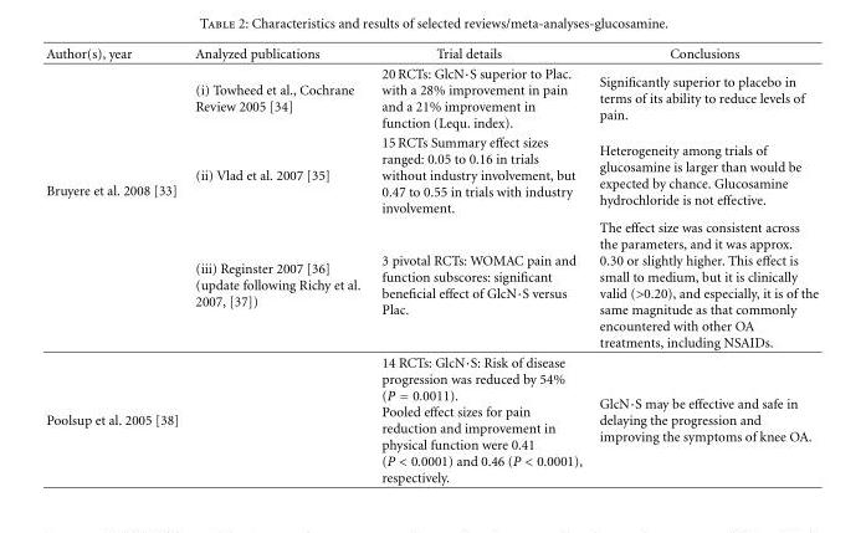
<table><thead><tr><td>Author(s), year</td><td>Analyzed publications</td><td>Trial details</td><td>Conclusions</td></tr></thead><tbody><tr><td rowspan="3">Bruyere et al. 2008 [33]</td><td>(i) Towheed et al., Cochrane Review 2005 [34]</td><td>20 RCTs: GlcN·S superior to Plac. with a 28% improvement in pain and a 21% improvement in function (Lequ. index).</td><td>Significantly superior to placebo in terms of its ability to reduce levels of pain.</td></tr><tr><td>(ii) Vlad et al. 2007 [35]</td><td>15 RCTs Summary effect sizes ranged: 0.05 to 0.16 in trials without industry involvement, but 0.47 to 0.55 in trials with industry involvement.</td><td>Heterogeneity among trials of glucosamine is larger than would be expected by chance. Glucosamine hydrochloride is not effective.</td></tr><tr><td>(iii) Reginster 2007 [36] (update following Richy et al. 2007, [37])</td><td>3 pivotal RCTs: WOMAC pain and function subscores: significant beneficial effect of GlcN·S versus Plac.</td><td>The effect size was consistent across the parameters, and it was approx. 0.30 or slightly higher. This effect is small to medium, but it is clinically valid (&gt;0.20), and especially, it is of the same magnitude as that commonly encountered with other OA treatments, including NSAIDs.</td></tr><tr><td>Poolsup et al. 2005 [38]</td><td></td><td>14 RCTs: GlcN·S: Risk of disease progression was reduced by 54% (P = 0.0011). Pooled effect sizes for pain reduction and improvement in physical function were 0.41 (P &lt; 0.0001) and 0.46 (P &lt; 0.0001), respectively.</td><td>GlcN·S may be effective and safe in delaying the progression and improving the symptoms of knee OA.</td></tr></tbody></table>